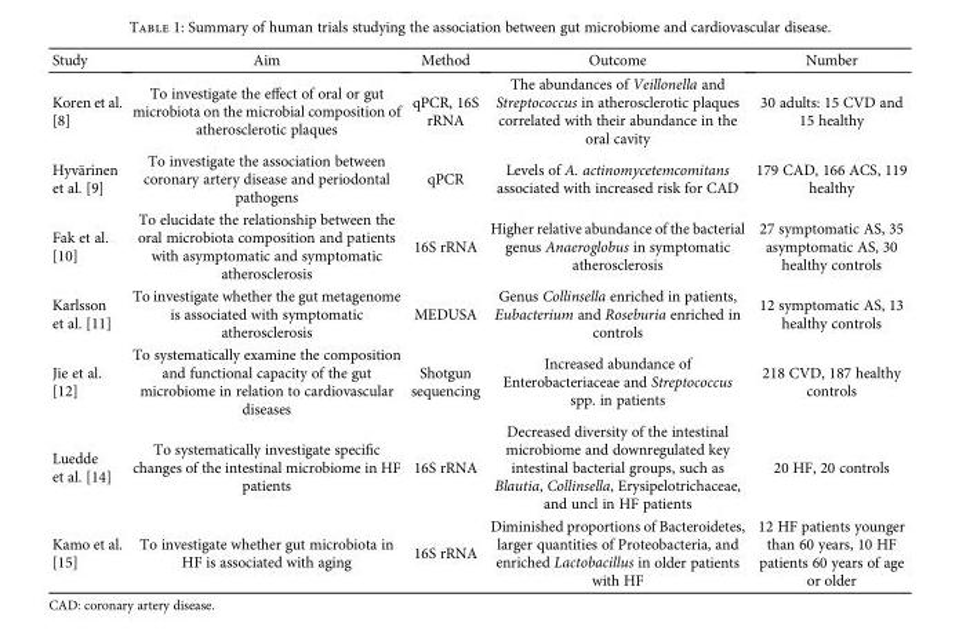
<table><thead><tr><td>Study</td><td>Aim</td><td>Method</td><td>Outcome</td><td>Number</td></tr></thead><tbody><tr><td>Koren et al. [8]</td><td>To investigate the effect of oral or gut microbiota on the microbial composition of atherosclerotic plaques</td><td>qPCR, 16S rRNA</td><td>The abundances of Veillonella and Streptococcus in atherosclerotic plaques correlated with their abundance in the oral cavity</td><td>30 adults: 15 CVD and 15 healthy</td></tr><tr><td>Hyvärinen et al. [9]</td><td>To investigate the association between coronary artery disease and periodontal pathogens</td><td>qPCR</td><td>Levels of A. actinomycetemcomitans associated with increased risk for CAD</td><td>179 CAD, 166 ACS, 119 healthy</td></tr><tr><td>Fak et al. [10]</td><td>To elucidate the relationship between the oral microbiota composition and patients with asymptomatic and symptomatic atherosclerosis</td><td>16S rRNA</td><td>Higher relative abundance of the bacterial genus Anaeroglobus in symptomatic atherosclerosis</td><td>27 symptomatic AS, 35 asymptomatic AS, 30 healthy controls</td></tr><tr><td>Karlsson et al. [11]</td><td>To investigate whether the gut metagenome is associated with symptomatic atherosclerosis</td><td>MEDUSA</td><td>Genus Collinsella enriched in patients, Eubacterium and Roseburia enriched in controls</td><td>12 symptomatic AS, 13 healthy controls</td></tr><tr><td>Jie et al. [12]</td><td>To systematically examine the composition and functional capacity of the gut microbiome in relation to cardiovascular diseases</td><td>Shotgun sequencing</td><td>Increased abundance of Enterobacteriaceae and Streptococcus spp. in patients</td><td>218 CVD, 187 healthy controls</td></tr><tr><td>Luedde et al. [14]</td><td>To systematically investigate specific changes of the intestinal microbiome in HF patients</td><td>16S rRNA</td><td>Decreased diversity of the intestinal microbiome and downregulated key intestinal bacterial groups, such as Blautia, Collinsella, Erysipelotrichaceae, and uncl in HF patients</td><td>20 HF, 20 controls</td></tr><tr><td>Kamo et al. [15]</td><td>To investigate whether gut microbiota in HF is associated with aging</td><td>16S rRNA</td><td>Diminished proportions of Bacteroidetes, larger quantities of Proteobacteria, and enriched Lactobacillus in older patients with HF</td><td>12 HF patients younger than 60 years, 10 HF patients 60 years of age or older</td></tr></tbody></table>